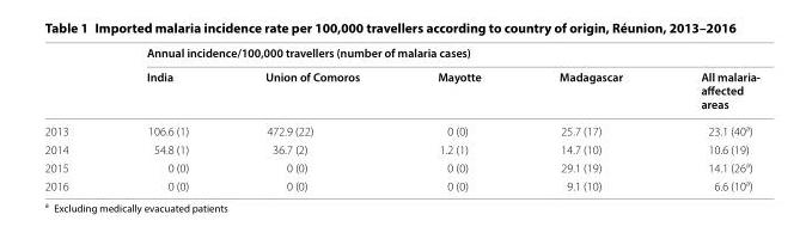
<table><thead><tr><td rowspan="2"></td><td colspan="5">Annual incidence/100,000 travellers (number of malaria cases)</td></tr><tr><td>India</td><td>Union of Comoros</td><td>Mayotte</td><td>Madagascar</td><td>All malaria- affected areas</td></tr></thead><tbody><tr><td>2013</td><td>106.6 (1)</td><td>472.9 (22)</td><td>0 (0)</td><td>25.7 (17)</td><td>23.1 (40<sup>a</sup>)</td></tr><tr><td>2014</td><td>54.8 (1)</td><td>36.7 (2)</td><td>1.2 (1)</td><td>14.7 (10)</td><td>10.6 (19)</td></tr><tr><td>2015</td><td>0 (0)</td><td>0 (0)</td><td>0 (0)</td><td>29.1 (19)</td><td>14.1 (26<sup>a</sup>)</td></tr><tr><td>2016</td><td>0 (0)</td><td>0 (0)</td><td>0 (0)</td><td>9.1 (10)</td><td>6.6 (10<sup>a</sup>)</td></tr></tbody></table>